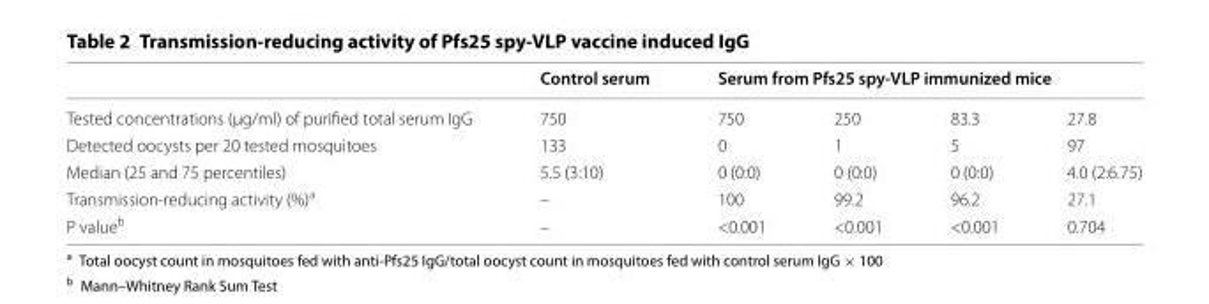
<table><thead><tr><td rowspan="2">Tested concentrations (µg/ml) of purified total serum IgG</td><td rowspan="2">Control serum 750</td><td colspan="4">Serum from Pfs25 spy‑VLP immunized mice</td></tr><tr><td>750</td><td>250</td><td>83.3</td><td>27.8</td></tr></thead><tbody><tr><td>Detected oocysts per 20 tested mosquitoes</td><td>133</td><td>0</td><td>1</td><td>5</td><td>97</td></tr><tr><td>Median (25 and 75 percentiles)</td><td>5.5 (3:10)</td><td>0 (0:0)</td><td>0 (0:0)</td><td>0 (0:0)</td><td>4.0 (2:6.75)</td></tr><tr><td>Transmission‑reducing activity (%)<sup>a</sup></td><td>–</td><td>100</td><td>99.2</td><td>96.2</td><td>27.1</td></tr><tr><td>P value<sup>b</sup></td><td>–</td><td>&lt;0.001</td><td>&lt;0.001</td><td>&lt;0.001</td><td>0.704</td></tr></tbody></table>